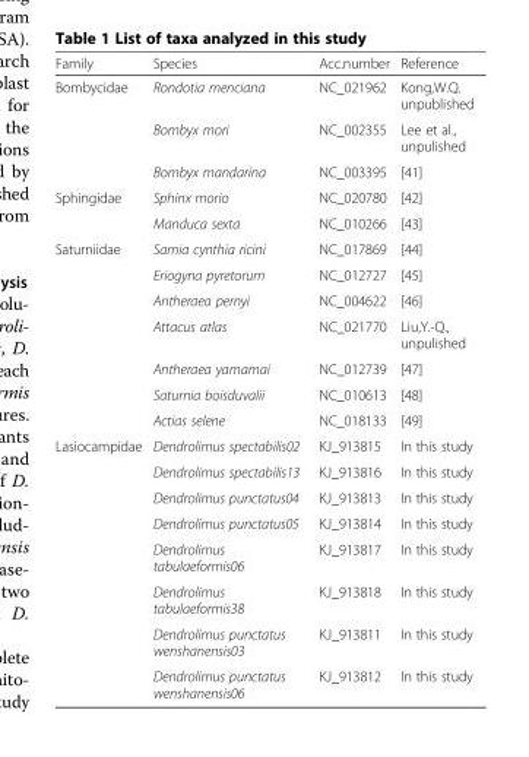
<table><thead><tr><td>Family</td><td>Species</td><td>Acc.number</td><td>Reference</td></tr></thead><tbody><tr><td rowspan="3">Bombycidae</td><td>Rondotia menciana</td><td>NC_021962</td><td>Kong,W.Q. unpublished</td></tr><tr><td>Bombyx mori</td><td>NC_002355</td><td>Lee et al., unpulished</td></tr><tr><td>Bombyx mandarina</td><td>NC_003395</td><td>[41]</td></tr><tr><td rowspan="2">Sphingidae</td><td>Sphinx morio</td><td>NC_020780</td><td>[42]</td></tr><tr><td>Manduca sexta</td><td>NC_010266</td><td>[43]</td></tr><tr><td rowspan="7">Saturniidae</td><td>Samia cynthia ricini</td><td>NC_017869</td><td>[44]</td></tr><tr><td>Eriogyna pyretorum</td><td>NC_012727</td><td>[45]</td></tr><tr><td>Antheraea pernyi</td><td>NC_004622</td><td>[46]</td></tr><tr><td>Attacus atlas</td><td>NC_021770</td><td>Liu,Y.-Q., unpulished</td></tr><tr><td>Antheraea yamamai</td><td>NC_012739</td><td>[47]</td></tr><tr><td>Saturnia boisduvalii</td><td>NC_010613</td><td>[48]</td></tr><tr><td>Actias selene</td><td>NC_018133</td><td>[49]</td></tr><tr><td rowspan="8">Lasiocampidae</td><td>Dendrolimus spectabilis02</td><td>KJ_913815</td><td>In this study</td></tr><tr><td>Dendrolimus spectabilis13</td><td>KJ_913816</td><td>In this study</td></tr><tr><td>Dendrolimus punctatus04</td><td>KJ_913813</td><td>In this study</td></tr><tr><td>Dendrolimus punctatus05</td><td>KJ_913814</td><td>In this study</td></tr><tr><td>Dendrolimus tabulaeformis06</td><td>KJ_913817</td><td>In this study</td></tr><tr><td>Dendrolimus tabulaeformis38</td><td>KJ_913818</td><td>In this study</td></tr><tr><td>Dendrolimus punctatus wenshanensis03</td><td>KJ_913811</td><td>In this study</td></tr><tr><td>Dendrolimus punctatus wenshanensis06</td><td>KJ_913812</td><td>In this study</td></tr></tbody></table>